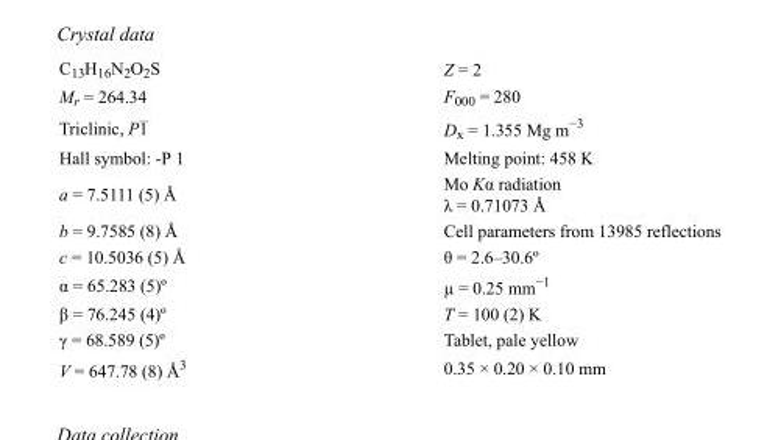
<table><tbody><tr><td>C<sub>13</sub>H<sub>16</sub>N<sub>2</sub>O<sub>2</sub>S</td><td>Z = 2</td></tr><tr><td>M<sub>r</sub> = 264.34</td><td>F<sub>000</sub> = 280</td></tr><tr><td>Triclinic, P1</td><td>D<sub>x</sub> = 1.355 Mg m<sup>−3</sup></td></tr><tr><td>Hall symbol: -P 1</td><td>Melting point: 458 K</td></tr><tr><td>a = 7.5111 (5) Å</td><td>Mo Kα radiation λ = 0.71073 Å</td></tr><tr><td>b = 9.7585 (8) Å</td><td>Cell parameters from 13985 reflections</td></tr><tr><td>c = 10.5036 (5) Å</td><td>θ = 2.6–30.6º</td></tr><tr><td>α = 65.283 (5)º</td><td>µ = 0.25 mm<sup>−1</sup></td></tr><tr><td>β = 76.245 (4)º</td><td>T = 100 (2) K</td></tr><tr><td>γ = 68.589 (5)º</td><td>Tablet, pale yellow</td></tr><tr><td>V = 647.78 (8) Å<sup>3</sup></td><td>0.35 × 0.20 × 0.10 mm</td></tr></tbody></table>